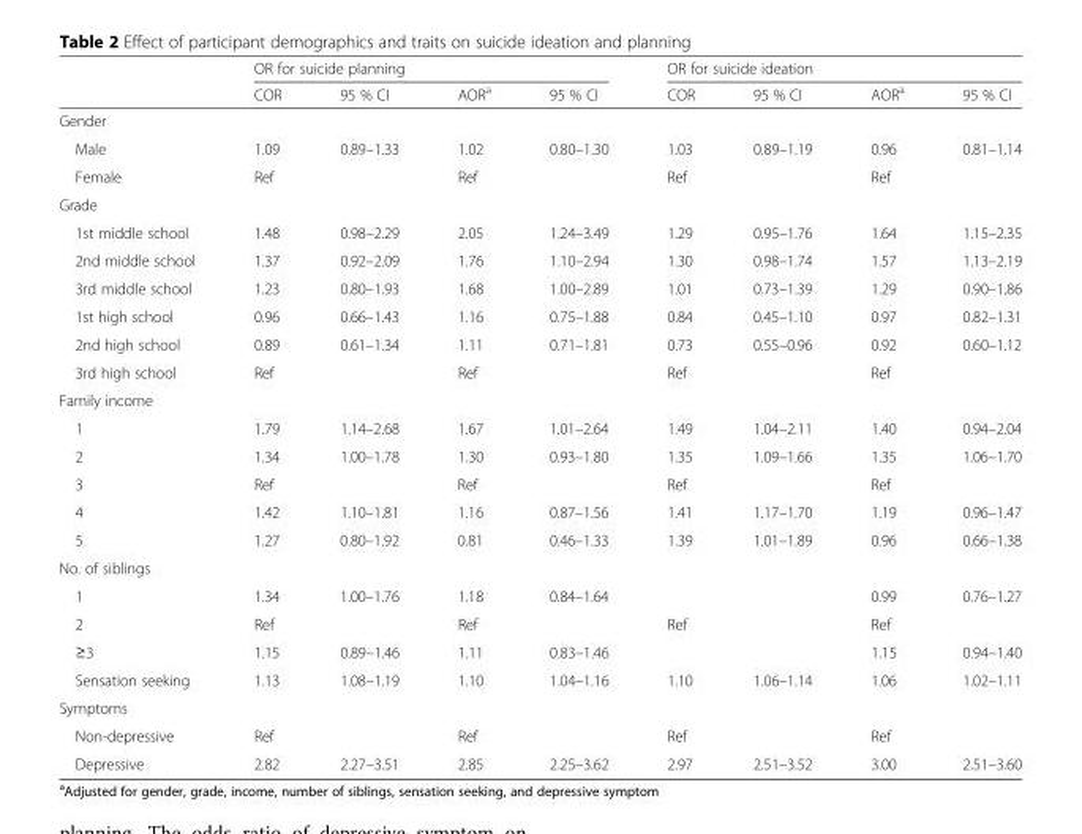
<table><thead><tr><td rowspan="2"></td><td colspan="4">OR for suicide planning</td><td colspan="4">OR for suicide ideation</td></tr><tr><td>COR</td><td>95 % CI</td><td>AOR<sup>a</sup></td><td>95 % CI</td><td>COR</td><td>95 % CI</td><td>AOR<sup>a</sup></td><td>95 % CI</td></tr></thead><tbody><tr><td colspan="9">Gender</td></tr><tr><td>Male</td><td>1.09</td><td>0.89–1.33</td><td>1.02</td><td>0.80–1.30</td><td>1.03</td><td>0.89–1.19</td><td>0.96</td><td>0.81–1.14</td></tr><tr><td>Female</td><td>Ref</td><td></td><td>Ref</td><td></td><td>Ref</td><td></td><td>Ref</td><td></td></tr><tr><td colspan="9">Grade</td></tr><tr><td>1st middle school</td><td>1.48</td><td>0.98–2.29</td><td>2.05</td><td>1.24–3.49</td><td>1.29</td><td>0.95–1.76</td><td>1.64</td><td>1.15–2.35</td></tr><tr><td>2nd middle school</td><td>1.37</td><td>0.92–2.09</td><td>1.76</td><td>1.10–2.94</td><td>1.30</td><td>0.98–1.74</td><td>1.57</td><td>1.13–2.19</td></tr><tr><td>3rd middle school</td><td>1.23</td><td>0.80–1.93</td><td>1.68</td><td>1.00–2.89</td><td>1.01</td><td>0.73–1.39</td><td>1.29</td><td>0.90–1.86</td></tr><tr><td>1st high school</td><td>0.96</td><td>0.66–1.43</td><td>1.16</td><td>0.75–1.88</td><td>0.84</td><td>0.45–1.10</td><td>0.97</td><td>0.82–1.31</td></tr><tr><td>2nd high school</td><td>0.89</td><td>0.61–1.34</td><td>1.11</td><td>0.71–1.81</td><td>0.73</td><td>0.55–0.96</td><td>0.92</td><td>0.60–1.12</td></tr><tr><td>3rd high school</td><td>Ref</td><td></td><td>Ref</td><td></td><td>Ref</td><td></td><td>Ref</td><td></td></tr><tr><td colspan="9">Family income</td></tr><tr><td>1</td><td>1.79</td><td>1.14–2.68</td><td>1.67</td><td>1.01–2.64</td><td>1.49</td><td>1.04–2.11</td><td>1.40</td><td>0.94–2.04</td></tr><tr><td>2</td><td>1.34</td><td>1.00–1.78</td><td>1.30</td><td>0.93–1.80</td><td>1.35</td><td>1.09–1.66</td><td>1.35</td><td>1.06–1.70</td></tr><tr><td>3</td><td>Ref</td><td></td><td>Ref</td><td></td><td>Ref</td><td></td><td>Ref</td><td></td></tr><tr><td>4</td><td>1.42</td><td>1.10–1.81</td><td>1.16</td><td>0.87–1.56</td><td>1.41</td><td>1.17–1.70</td><td>1.19</td><td>0.96–1.47</td></tr><tr><td>5</td><td>1.27</td><td>0.80–1.92</td><td>0.81</td><td>0.46–1.33</td><td>1.39</td><td>1.01–1.89</td><td>0.96</td><td>0.66–1.38</td></tr><tr><td colspan="9">No. of siblings</td></tr><tr><td>1</td><td>1.34</td><td>1.00–1.76</td><td>1.18</td><td>0.84–1.64</td><td></td><td></td><td>0.99</td><td>0.76–1.27</td></tr><tr><td>2</td><td>Ref</td><td></td><td>Ref</td><td></td><td>Ref</td><td></td><td>Ref</td><td></td></tr><tr><td>≥3</td><td>1.15</td><td>0.89–1.46</td><td>1.11</td><td>0.83–1.46</td><td></td><td></td><td>1.15</td><td>0.94–1.40</td></tr><tr><td>Sensation seeking</td><td>1.13</td><td>1.08–1.19</td><td>1.10</td><td>1.04–1.16</td><td>1.10</td><td>1.06–1.14</td><td>1.06</td><td>1.02–1.11</td></tr><tr><td colspan="9">Symptoms</td></tr><tr><td>Non-depressive</td><td>Ref</td><td></td><td>Ref</td><td></td><td>Ref</td><td></td><td>Ref</td><td></td></tr><tr><td>Depressive</td><td>2.82</td><td>2.27–3.51</td><td>2.85</td><td>2.25–3.62</td><td>2.97</td><td>2.51–3.52</td><td>3.00</td><td>2.51–3.60</td></tr></tbody></table>